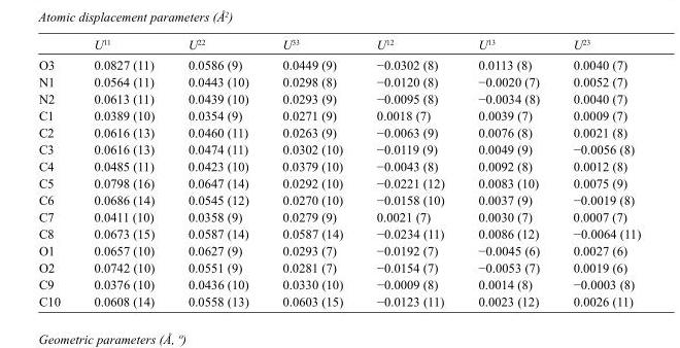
<table><thead><tr><td></td><td>U<sup>11</sup></td><td>U<sup>22</sup></td><td>U<sup>33</sup></td><td>U<sup>12</sup></td><td>U<sup>13</sup></td><td>U<sup>23</sup></td></tr></thead><tbody><tr><td>O3</td><td>0.0827 (11)</td><td>0.0586 (9)</td><td>0.0449 (9)</td><td>−0.0302 (8)</td><td>0.0113 (8)</td><td>0.0040 (7)</td></tr><tr><td>N1</td><td>0.0564 (11)</td><td>0.0443 (10)</td><td>0.0298 (8)</td><td>−0.0120 (8)</td><td>−0.0020 (7)</td><td>0.0052 (7)</td></tr><tr><td>N2</td><td>0.0613 (11)</td><td>0.0439 (10)</td><td>0.0293 (9)</td><td>−0.0095 (8)</td><td>−0.0034 (8)</td><td>0.0040 (7)</td></tr><tr><td>C1</td><td>0.0389 (10)</td><td>0.0354 (9)</td><td>0.0271 (9)</td><td>0.0018 (7)</td><td>0.0039 (7)</td><td>0.0009 (7)</td></tr><tr><td>C2</td><td>0.0616 (13)</td><td>0.0460 (11)</td><td>0.0263 (9)</td><td>−0.0063 (9)</td><td>0.0076 (8)</td><td>0.0021 (8)</td></tr><tr><td>C3</td><td>0.0616 (13)</td><td>0.0474 (11)</td><td>0.0302 (10)</td><td>−0.0119 (9)</td><td>0.0049 (9)</td><td>−0.0056 (8)</td></tr><tr><td>C4</td><td>0.0485 (11)</td><td>0.0423 (10)</td><td>0.0379 (10)</td><td>−0.0043 (8)</td><td>0.0092 (8)</td><td>0.0012 (8)</td></tr><tr><td>C5</td><td>0.0798 (16)</td><td>0.0647 (14)</td><td>0.0292 (10)</td><td>−0.0221 (12)</td><td>0.0083 (10)</td><td>0.0075 (9)</td></tr><tr><td>C6</td><td>0.0686 (14)</td><td>0.0545 (12)</td><td>0.0270 (10)</td><td>−0.0158 (10)</td><td>0.0037 (9)</td><td>−0.0019 (8)</td></tr><tr><td>C7</td><td>0.0411 (10)</td><td>0.0358 (9)</td><td>0.0279 (9)</td><td>0.0021 (7)</td><td>0.0030 (7)</td><td>0.0007 (7)</td></tr><tr><td>C8</td><td>0.0673 (15)</td><td>0.0587 (14)</td><td>0.0587 (14)</td><td>−0.0234 (11)</td><td>0.0086 (12)</td><td>−0.0064 (11)</td></tr><tr><td>O1</td><td>0.0657 (10)</td><td>0.0627 (9)</td><td>0.0293 (7)</td><td>−0.0192 (7)</td><td>−0.0045 (6)</td><td>0.0027 (6)</td></tr><tr><td>O2</td><td>0.0742 (10)</td><td>0.0551 (9)</td><td>0.0281 (7)</td><td>−0.0154 (7)</td><td>−0.0053 (7)</td><td>0.0019 (6)</td></tr><tr><td>C9</td><td>0.0376 (10)</td><td>0.0436 (10)</td><td>0.0330 (10)</td><td>−0.0009 (8)</td><td>0.0014 (8)</td><td>−0.0003 (8)</td></tr><tr><td>C10</td><td>0.0608 (14)</td><td>0.0558 (13)</td><td>0.0603 (15)</td><td>−0.0123 (11)</td><td>0.0023 (12)</td><td>0.0026 (11)</td></tr></tbody></table>